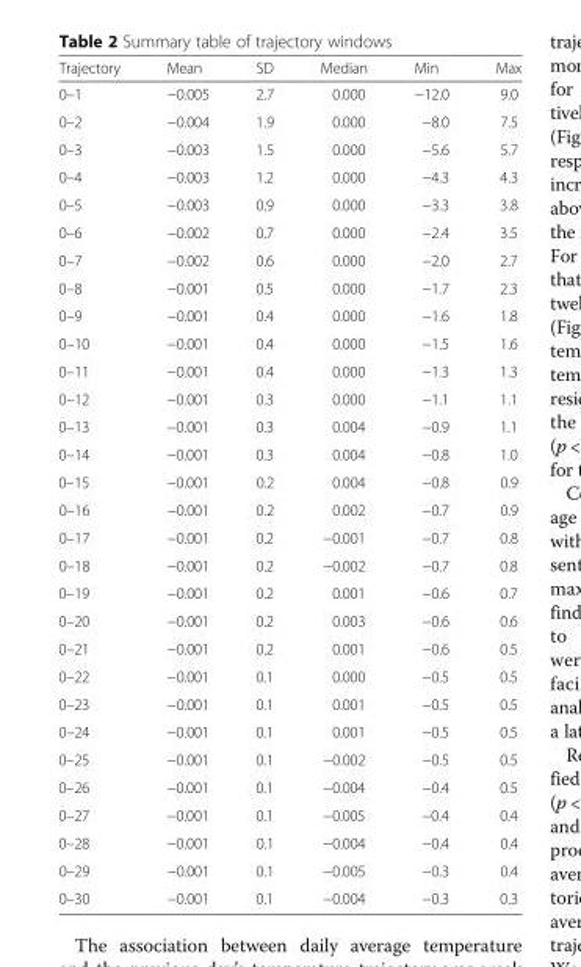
<table><thead><tr><td>Trajectory</td><td>Mean</td><td>SD</td><td>Median</td><td>Min</td><td>Max</td></tr></thead><tbody><tr><td>0–1</td><td>−0.005</td><td>2.7</td><td>0.000</td><td>−12.0</td><td>9.0</td></tr><tr><td>0–2</td><td>−0.004</td><td>1.9</td><td>0.000</td><td>−8.0</td><td>7.5</td></tr><tr><td>0–3</td><td>−0.003</td><td>1.5</td><td>0.000</td><td>−5.6</td><td>5.7</td></tr><tr><td>0–4</td><td>−0.003</td><td>1.2</td><td>0.000</td><td>−4.3</td><td>4.3</td></tr><tr><td>0–5</td><td>−0.003</td><td>0.9</td><td>0.000</td><td>−3.3</td><td>3.8</td></tr><tr><td>0–6</td><td>−0.002</td><td>0.7</td><td>0.000</td><td>−2.4</td><td>3.5</td></tr><tr><td>0–7</td><td>−0.002</td><td>0.6</td><td>0.000</td><td>−2.0</td><td>2.7</td></tr><tr><td>0–8</td><td>−0.001</td><td>0.5</td><td>0.000</td><td>−1.7</td><td>2.3</td></tr><tr><td>0–9</td><td>−0.001</td><td>0.4</td><td>0.000</td><td>−1.6</td><td>1.8</td></tr><tr><td>0–10</td><td>−0.001</td><td>0.4</td><td>0.000</td><td>−1.5</td><td>1.6</td></tr><tr><td>0–11</td><td>−0.001</td><td>0.4</td><td>0.000</td><td>−1.3</td><td>1.3</td></tr><tr><td>0–12</td><td>−0.001</td><td>0.3</td><td>0.000</td><td>−1.1</td><td>1.1</td></tr><tr><td>0–13</td><td>−0.001</td><td>0.3</td><td>0.004</td><td>−0.9</td><td>1.1</td></tr><tr><td>0–14</td><td>−0.001</td><td>0.3</td><td>0.004</td><td>−0.8</td><td>1.0</td></tr><tr><td>0–15</td><td>−0.001</td><td>0.2</td><td>0.004</td><td>−0.8</td><td>0.9</td></tr><tr><td>0–16</td><td>−0.001</td><td>0.2</td><td>0.002</td><td>−0.7</td><td>0.9</td></tr><tr><td>0–17</td><td>−0.001</td><td>0.2</td><td>−0.001</td><td>−0.7</td><td>0.8</td></tr><tr><td>0–18</td><td>−0.001</td><td>0.2</td><td>−0.002</td><td>−0.7</td><td>0.8</td></tr><tr><td>0–19</td><td>−0.001</td><td>0.2</td><td>0.001</td><td>−0.6</td><td>0.7</td></tr><tr><td>0–20</td><td>−0.001</td><td>0.2</td><td>0.003</td><td>−0.6</td><td>0.6</td></tr><tr><td>0–21</td><td>−0.001</td><td>0.2</td><td>0.001</td><td>−0.6</td><td>0.5</td></tr><tr><td>0–22</td><td>−0.001</td><td>0.1</td><td>0.000</td><td>−0.5</td><td>0.5</td></tr><tr><td>0–23</td><td>−0.001</td><td>0.1</td><td>0.001</td><td>−0.5</td><td>0.5</td></tr><tr><td>0–24</td><td>−0.001</td><td>0.1</td><td>0.001</td><td>−0.5</td><td>0.5</td></tr><tr><td>0–25</td><td>−0.001</td><td>0.1</td><td>−0.002</td><td>−0.5</td><td>0.5</td></tr><tr><td>0–26</td><td>−0.001</td><td>0.1</td><td>−0.004</td><td>−0.4</td><td>0.5</td></tr><tr><td>0–27</td><td>−0.001</td><td>0.1</td><td>−0.005</td><td>−0.4</td><td>0.4</td></tr><tr><td>0–28</td><td>−0.001</td><td>0.1</td><td>−0.004</td><td>−0.4</td><td>0.4</td></tr><tr><td>0–29</td><td>−0.001</td><td>0.1</td><td>−0.005</td><td>−0.3</td><td>0.4</td></tr><tr><td>0–30</td><td>−0.001</td><td>0.1</td><td>−0.004</td><td>−0.3</td><td>0.3</td></tr></tbody></table>